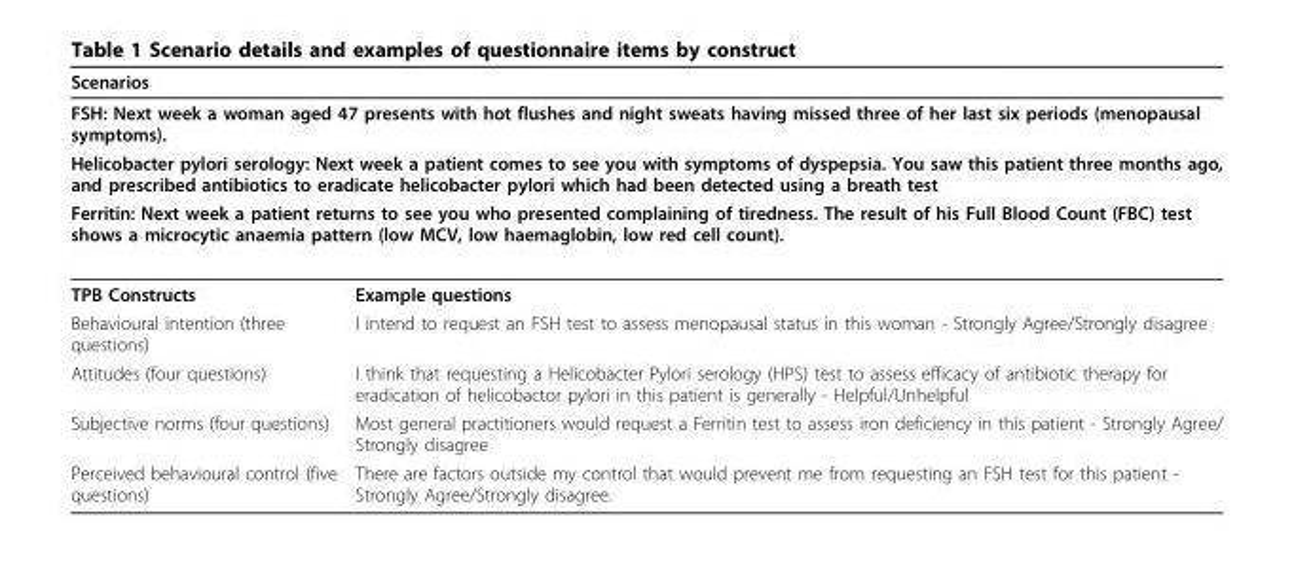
<table><thead><tr><td colspan="2">Scenarios</td></tr></thead><tbody><tr><td colspan="2">FSH: Next week a woman aged 47 presents with hot flushes and night sweats having missed three of her last six periods (menopausal symptoms).</td></tr><tr><td colspan="2">Helicobacter pylori serology: Next week a patient comes to see you with symptoms of dyspepsia. You saw this patient three months ago, and prescribed antibiotics to eradicate helicobacter pylori which had been detected using a breath test</td></tr><tr><td colspan="2">Ferritin: Next week a patient returns to see you who presented complaining of tiredness. The result of his Full Blood Count (FBC) test shows a microcytic anaemia pattern (low MCV, low haemaglobin, low red cell count).</td></tr><tr><td>TPB Constructs</td><td>Example questions</td></tr><tr><td>Behavioural intention (three questions)</td><td>I intend to request an FSH test to assess menopausal status in this woman - Strongly Agree/Strongly disagree</td></tr><tr><td>Attitudes (four questions)</td><td>I think that requesting a Helicobacter Pylori serology (HPS) test to assess efficacy of antibiotic therapy for eradication of helicobactor pylori in this patient is generally - Helpful/Unhelpful</td></tr><tr><td>Subjective norms (four questions)</td><td>Most general practitioners would request a Ferritin test to assess iron deficiency in this patient - Strongly Agree/ Strongly disagree</td></tr><tr><td>Perceived behavioural control (five questions)</td><td>There are factors outside my control that would prevent me from requesting an FSH test for this patient - Strongly Agree/Strongly disagree.</td></tr></tbody></table>